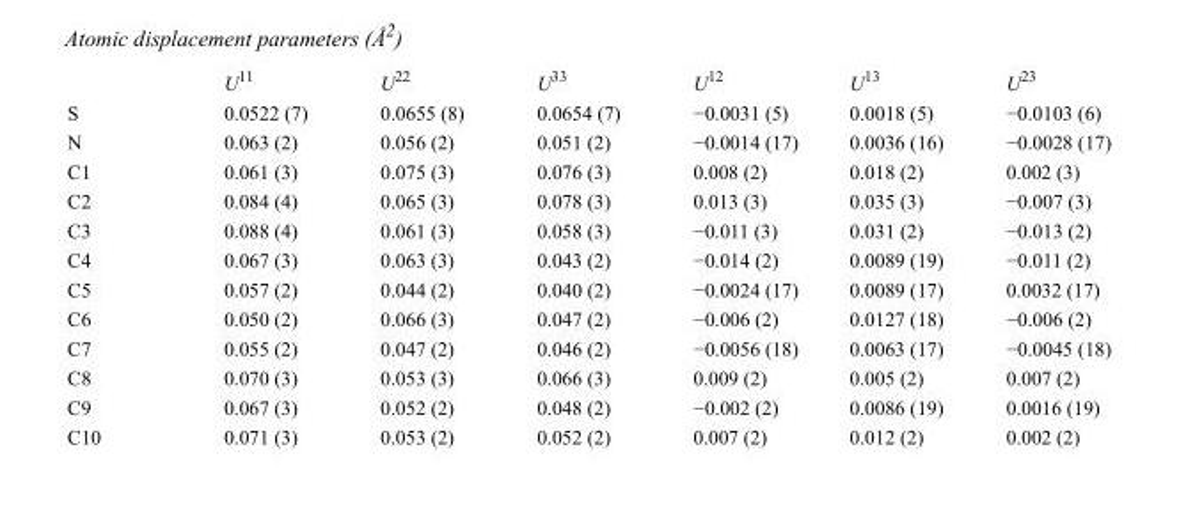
<table><thead><tr><td></td><td>U<sup>11</sup></td><td>U<sup>22</sup></td><td>U<sup>33</sup></td><td>U<sup>12</sup></td><td>U<sup>13</sup></td><td>U<sup>23</sup></td></tr></thead><tbody><tr><td>S</td><td>0.0522 (7)</td><td>0.0655 (8)</td><td>0.0654 (7)</td><td>−0.0031 (5)</td><td>0.0018 (5)</td><td>−0.0103 (6)</td></tr><tr><td>N</td><td>0.063 (2)</td><td>0.056 (2)</td><td>0.051 (2)</td><td>−0.0014 (17)</td><td>0.0036 (16)</td><td>−0.0028 (17)</td></tr><tr><td>C1</td><td>0.061 (3)</td><td>0.075 (3)</td><td>0.076 (3)</td><td>0.008 (2)</td><td>0.018 (2)</td><td>0.002 (3)</td></tr><tr><td>C2</td><td>0.084 (4)</td><td>0.065 (3)</td><td>0.078 (3)</td><td>0.013 (3)</td><td>0.035 (3)</td><td>−0.007 (3)</td></tr><tr><td>C3</td><td>0.088 (4)</td><td>0.061 (3)</td><td>0.058 (3)</td><td>−0.011 (3)</td><td>0.031 (2)</td><td>−0.013 (2)</td></tr><tr><td>C4</td><td>0.067 (3)</td><td>0.063 (3)</td><td>0.043 (2)</td><td>−0.014 (2)</td><td>0.0089 (19)</td><td>−0.011 (2)</td></tr><tr><td>C5</td><td>0.057 (2)</td><td>0.044 (2)</td><td>0.040 (2)</td><td>−0.0024 (17)</td><td>0.0089 (17)</td><td>0.0032 (17)</td></tr><tr><td>C6</td><td>0.050 (2)</td><td>0.066 (3)</td><td>0.047 (2)</td><td>−0.006 (2)</td><td>0.0127 (18)</td><td>−0.006 (2)</td></tr><tr><td>C7</td><td>0.055 (2)</td><td>0.047 (2)</td><td>0.046 (2)</td><td>−0.0056 (18)</td><td>0.0063 (17)</td><td>−0.0045 (18)</td></tr><tr><td>C8</td><td>0.070 (3)</td><td>0.053 (3)</td><td>0.066 (3)</td><td>0.009 (2)</td><td>0.005 (2)</td><td>0.007 (2)</td></tr><tr><td>C9</td><td>0.067 (3)</td><td>0.052 (2)</td><td>0.048 (2)</td><td>−0.002 (2)</td><td>0.0086 (19)</td><td>0.0016 (19)</td></tr><tr><td>C10</td><td>0.071 (3)</td><td>0.053 (2)</td><td>0.052 (2)</td><td>0.007 (2)</td><td>0.012 (2)</td><td>0.002 (2)</td></tr></tbody></table>